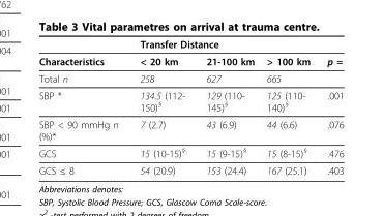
<table><thead><tr><td rowspan="2">Characteristics</td><td colspan="3">Transfer Distance</td><td rowspan="2">p =</td></tr><tr><td>&lt; 20 km</td><td>21-100 km</td><td>&gt; 100 km</td></tr></thead><tbody><tr><td>Total n</td><td>258</td><td>627</td><td>665</td><td></td></tr><tr><td>SBP *</td><td>134.5 (112- 150)§</td><td>129 (110- 145)§</td><td>125 (110- 140)§</td><td>.001</td></tr><tr><td>SBP &lt; 90 mmHg n (%)*</td><td>7 (2.7)</td><td>43 (6.9)</td><td>44 (6.6)</td><td>.076</td></tr><tr><td>GCS</td><td>15 (10-15)§</td><td>15 (9-15)§</td><td>15 (8-15)§</td><td>.476</td></tr><tr><td>GCS ≤ 8</td><td>54 (20.9)</td><td>153 (24.4)</td><td>167 (25.1)</td><td>.403</td></tr></tbody></table>